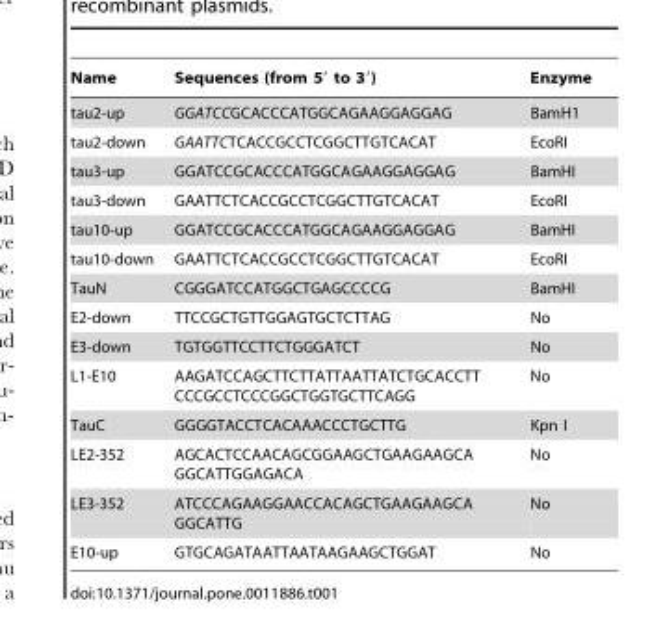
<table><thead><tr><td>Name</td><td>Sequences (from 5′ to 3′)</td><td>Enzyme</td></tr></thead><tbody><tr><td>tau2-up</td><td>GGATCCGCACCCATGGCAGAAGGAGGAG</td><td>BamH1</td></tr><tr><td>tau2-down</td><td>GAATTCTCACCGCCTCGGCTTGTCACAT</td><td>EcoRI</td></tr><tr><td>tau3-up</td><td>GGATCCGCACCCATGGCAGAAGGAGGAG</td><td>BamHI</td></tr><tr><td>tau3-down</td><td>GAATTCTCACCGCCTCGGCTTGTCACAT</td><td>EcoRI</td></tr><tr><td>tau10-up</td><td>GGATCCGCACCCATGGCAGAAGGAGGAG</td><td>BamHI</td></tr><tr><td>tau10-down</td><td>GAATTCTCACCGCCTCGGCTTGTCACAT</td><td>EcoRI</td></tr><tr><td>TauN</td><td>CGGGATCCATGGCTGAGCCCCG</td><td>BamHI</td></tr><tr><td>E2-down</td><td>TTCCGCTGTTGGAGTGCTCTTAG</td><td>No</td></tr><tr><td>E3-down</td><td>TGTGGTTCCTTCTGGGATCT</td><td>No</td></tr><tr><td>L1-E10</td><td>AAGATCCAGCTTCTTATTAATTATCTGCACCTT CCCGCCTCCCGGCTGGTGCTTCAGG</td><td>No</td></tr><tr><td>TauC</td><td>GGGGTACCTCACAAACCCTGCTTG</td><td>Kpn I</td></tr><tr><td>LE2-352</td><td>AGCACTCCAACAGCGGAAGCTGAAGAAGCA GGCATTGGAGACA</td><td>No</td></tr><tr><td>LE3-352</td><td>ATCCCAGAAGGAACCACAGCTGAAGAAGCA GGCATTG</td><td>No</td></tr><tr><td>E10-up</td><td>GTGCAGATAATTAATAAGAAGCTGGAT</td><td>No</td></tr></tbody></table>